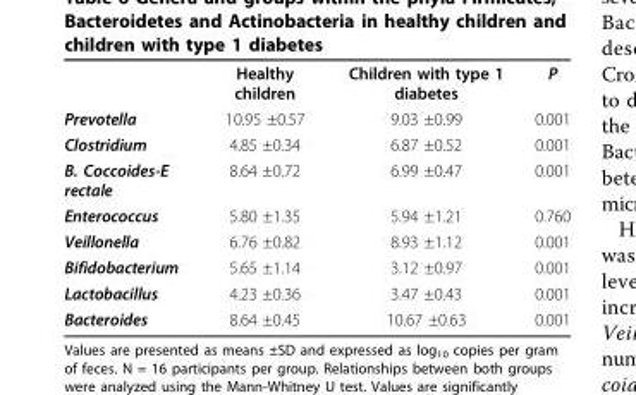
<table><thead><tr><td></td><td>Healthy children</td><td>Children with type 1 diabetes</td><td>P</td></tr></thead><tbody><tr><td>Prevotella</td><td>10.95 ±0.57</td><td>9.03 ±0.99</td><td>0.001</td></tr><tr><td>Clostridium</td><td>4.85 ±0.34</td><td>6.87 ±0.52</td><td>0.001</td></tr><tr><td>B. Coccoides-E rectale</td><td>8.64 ±0.72</td><td>6.99 ±0.47</td><td>0.001</td></tr><tr><td>Enterococcus</td><td>5.80 ±1.35</td><td>5.94 ±1.21</td><td>0.760</td></tr><tr><td>Veillonella</td><td>6.76 ±0.82</td><td>8.93 ±1.12</td><td>0.001</td></tr><tr><td>Bifidobacterium</td><td>5.65 ±1.14</td><td>3.12 ±0.97</td><td>0.001</td></tr><tr><td>Lactobacillus</td><td>4.23 ±0.36</td><td>3.47 ±0.43</td><td>0.001</td></tr><tr><td>Bacteroides</td><td>8.64 ±0.45</td><td>10.67 ±0.63</td><td>0.001</td></tr></tbody></table>